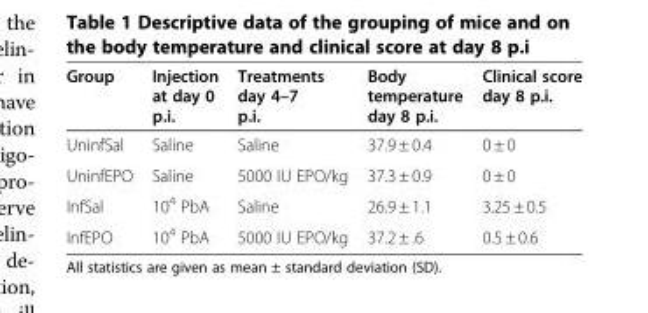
<table><thead><tr><td>Group</td><td>Injection at day 0 p.i.</td><td>Treatments day 4–7 p.i.</td><td>Body temperature day 8 p.i.</td><td>Clinical score day 8 p.i.</td></tr></thead><tbody><tr><td>UninfSal</td><td>Saline</td><td>Saline</td><td>37.9 ± 0.4</td><td>0 ± 0</td></tr><tr><td>UninfEPO</td><td>Saline</td><td>5000 IU EPO/kg</td><td>37.3 ± 0.9</td><td>0 ± 0</td></tr><tr><td>InfSal</td><td>10<sup>4</sup> PbA</td><td>Saline</td><td>26.9 ± 1.1</td><td>3.25 ± 0.5</td></tr><tr><td>InfEPO</td><td>10<sup>4</sup> PbA</td><td>5000 IU EPO/kg</td><td>37.2 ± .6</td><td>0.5 ± 0.6</td></tr></tbody></table>